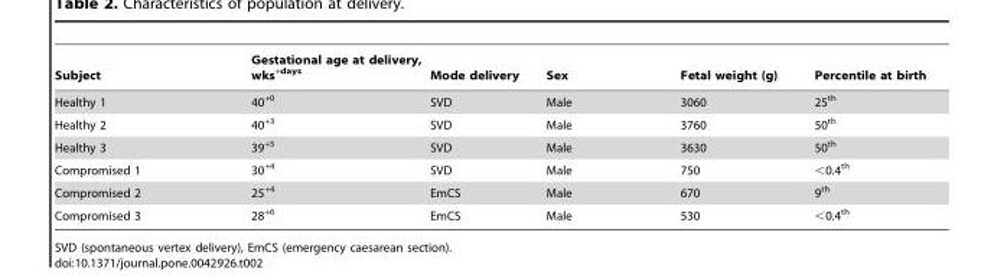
<table><thead><tr><td>Subject</td><td>Gestational age at delivery, wks<sup>+days</sup></td><td>Mode delivery</td><td>Sex</td><td>Fetal weight (g)</td><td>Percentile at birth</td></tr></thead><tbody><tr><td>Healthy 1</td><td>40<sup>+0</sup></td><td>SVD</td><td>Male</td><td>3060</td><td>25<sup>th</sup></td></tr><tr><td>Healthy 2</td><td>40<sup>+3</sup></td><td>SVD</td><td>Male</td><td>3760</td><td>50<sup>th</sup></td></tr><tr><td>Healthy 3</td><td>39<sup>+5</sup></td><td>SVD</td><td>Male</td><td>3630</td><td>50<sup>th</sup></td></tr><tr><td>Compromised 1</td><td>30<sup>+4</sup></td><td>SVD</td><td>Male</td><td>750</td><td>&lt;0.4<sup>th</sup></td></tr><tr><td>Compromised 2</td><td>25<sup>+4</sup></td><td>EmCS</td><td>Male</td><td>670</td><td>9<sup>th</sup></td></tr><tr><td>Compromised 3</td><td>28<sup>+6</sup></td><td>EmCS</td><td>Male</td><td>530</td><td>&lt;0.4<sup>th</sup></td></tr></tbody></table>